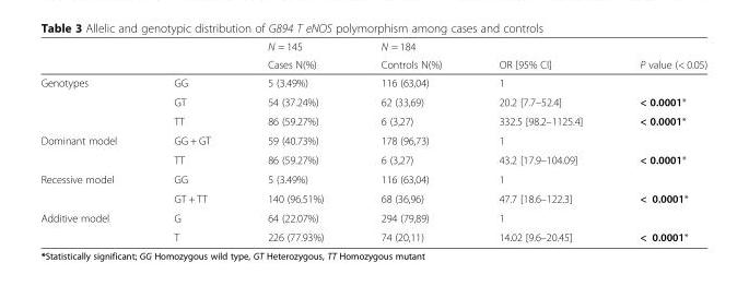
<table><thead><tr><td rowspan="2"></td><td rowspan="2"></td><td rowspan="2">N = 145 Cases N(%)</td><td rowspan="2">N = 184 Controls N(%)</td><td rowspan="2">OR [95% CI]</td><td rowspan="2">P value (&lt; 0.05)</td></tr><tr></tr></thead><tbody><tr><td rowspan="3">Genotypes</td><td>GG</td><td>5 (3.49%)</td><td>116 (63,04)</td><td>1</td><td></td></tr><tr><td>GT</td><td>54 (37.24%)</td><td>62 (33,69)</td><td>20.2 [7.7–52.4]</td><td>&lt; 0.0001*</td></tr><tr><td>TT</td><td>86 (59.27%)</td><td>6 (3,27)</td><td>332.5 [98.2–1125.4]</td><td>&lt; 0.0001*</td></tr><tr><td rowspan="2">Dominant model</td><td>GG + GT</td><td>59 (40.73%)</td><td>178 (96,73)</td><td>1</td><td></td></tr><tr><td>TT</td><td>86 (59.27%)</td><td>6 (3,27)</td><td>43.2 [17.9–104.09]</td><td>&lt; 0.0001*</td></tr><tr><td rowspan="2">Recessive model</td><td>GG</td><td>5 (3.49%)</td><td>116 (63,04)</td><td>1</td><td></td></tr><tr><td>GT + TT</td><td>140 (96.51%)</td><td>68 (36,96)</td><td>47.7 [18.6–122.3]</td><td>&lt; 0.0001*</td></tr><tr><td rowspan="2">Additive model</td><td>G</td><td>64 (22.07%)</td><td>294 (79,89)</td><td>1</td><td></td></tr><tr><td>T</td><td>226 (77.93%)</td><td>74 (20,11)</td><td>14.02 [9.6–20.45]</td><td>&lt; 0.0001*</td></tr></tbody></table>